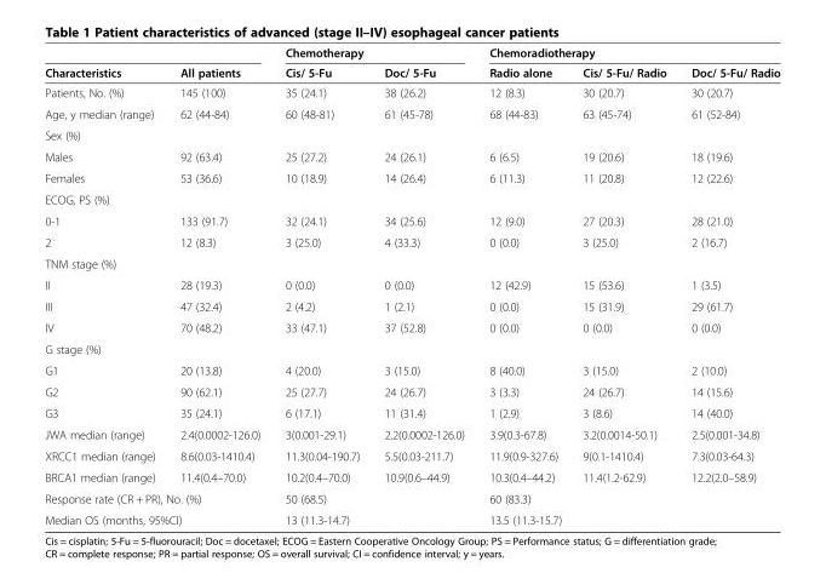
<table><thead><tr><td rowspan="2">Characteristics</td><td rowspan="2">All patients</td><td colspan="2">Chemotherapy</td><td colspan="3">Chemoradiotherapy</td></tr><tr><td>Cis/ 5-Fu</td><td>Doc/ 5-Fu</td><td>Radio alone</td><td>Cis/ 5-Fu/ Radio</td><td>Doc/ 5-Fu/ Radio</td></tr></thead><tbody><tr><td>Patients, No. (%)</td><td>145 (100)</td><td>35 (24.1)</td><td>38 (26.2)</td><td>12 (8.3)</td><td>30 (20.7)</td><td>30 (20.7)</td></tr><tr><td>Age, y median (range)</td><td>62 (44-84)</td><td>60 (48-81)</td><td>61 (45-78)</td><td>68 (44-83)</td><td>63 (45-74)</td><td>61 (52-84)</td></tr><tr><td colspan="7">Sex (%)</td></tr><tr><td>Males</td><td>92 (63.4)</td><td>25 (27.2)</td><td>24 (26.1)</td><td>6 (6.5)</td><td>19 (20.6)</td><td>18 (19.6)</td></tr><tr><td>Females</td><td>53 (36.6)</td><td>10 (18.9)</td><td>14 (26.4)</td><td>6 (11.3)</td><td>11 (20.8)</td><td>12 (22.6)</td></tr><tr><td colspan="7">ECOG, PS (%)</td></tr><tr><td>0-1</td><td>133 (91.7)</td><td>32 (24.1)</td><td>34 (25.6)</td><td>12 (9.0)</td><td>27 (20.3)</td><td>28 (21.0)</td></tr><tr><td>2</td><td>12 (8.3)</td><td>3 (25.0)</td><td>4 (33.3)</td><td>0 (0.0)</td><td>3 (25.0)</td><td>2 (16.7)</td></tr><tr><td colspan="7">TNM stage (%)</td></tr><tr><td>II</td><td>28 (19.3)</td><td>0 (0.0)</td><td>0 (0.0)</td><td>12 (42.9)</td><td>15 (53.6)</td><td>1 (3.5)</td></tr><tr><td>III</td><td>47 (32.4)</td><td>2 (4.2)</td><td>1 (2.1)</td><td>0 (0.0)</td><td>15 (31.9)</td><td>29 (61.7)</td></tr><tr><td>IV</td><td>70 (48.2)</td><td>33 (47.1)</td><td>37 (52.8)</td><td>0 (0.0)</td><td>0 (0.0)</td><td>0 (0.0)</td></tr><tr><td colspan="7">G stage (%)</td></tr><tr><td>G1</td><td>20 (13.8)</td><td>4 (20.0)</td><td>3 (15.0)</td><td>8 (40.0)</td><td>3 (15.0)</td><td>2 (10.0)</td></tr><tr><td>G2</td><td>90 (62.1)</td><td>25 (27.7)</td><td>24 (26.7)</td><td>3 (3.3)</td><td>24 (26.7)</td><td>14 (15.6)</td></tr><tr><td>G3</td><td>35 (24.1)</td><td>6 (17.1)</td><td>11 (31.4)</td><td>1 (2.9)</td><td>3 (8.6)</td><td>14 (40.0)</td></tr><tr><td>JWA median (range)</td><td>2.4(0.0002-126.0)</td><td>3(0.001-29.1)</td><td>2.2(0.0002-126.0)</td><td>3.9(0.3-67.8)</td><td>3.2(0.0014-50.1)</td><td>2.5(0.001-34.8)</td></tr><tr><td>XRCC1 median (range)</td><td>8.6(0.03-1410.4)</td><td>11.3(0.04-190.7)</td><td>5.5(0.03-211.7)</td><td>11.9(0.9-327.6)</td><td>9(0.1-1410.4)</td><td>7.3(0.03-64.3)</td></tr><tr><td>BRCA1 median (range)</td><td>11.4(0.4–70.0)</td><td>10.2(0.4–70.0)</td><td>10.9(0.6–44.9)</td><td>10.3(0.4–44.2)</td><td>11.4(1.2-62.9)</td><td>12.2(2.0–58.9)</td></tr><tr><td colspan="2">Response rate (CR + PR), No. (%)</td><td colspan="2">50 (68.5)</td><td colspan="3">60 (83.3)</td></tr><tr><td colspan="2">Median OS (months, 95%CI)</td><td colspan="2">13 (11.3-14.7)</td><td colspan="3">13.5 (11.3-15.7)</td></tr></tbody></table>